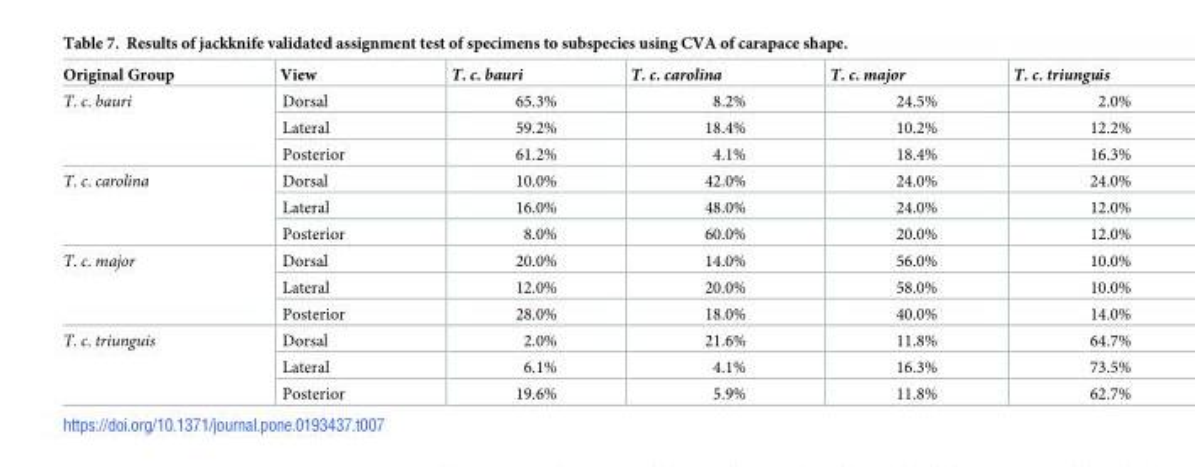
<table><thead><tr><td>Original Group</td><td>View</td><td>T. c. bauri</td><td>T. c. carolina</td><td>T. c. major</td><td>T. c. triunguis</td></tr></thead><tbody><tr><td rowspan="3">T. c. bauri</td><td>Dorsal</td><td>65.3%</td><td>8.2%</td><td>24.5%</td><td>2.0%</td></tr><tr><td>Lateral</td><td>59.2%</td><td>18.4%</td><td>10.2%</td><td>12.2%</td></tr><tr><td>Posterior</td><td>61.2%</td><td>4.1%</td><td>18.4%</td><td>16.3%</td></tr><tr><td rowspan="3">T. c. carolina</td><td>Dorsal</td><td>10.0%</td><td>42.0%</td><td>24.0%</td><td>24.0%</td></tr><tr><td>Lateral</td><td>16.0%</td><td>48.0%</td><td>24.0%</td><td>12.0%</td></tr><tr><td>Posterior</td><td>8.0%</td><td>60.0%</td><td>20.0%</td><td>12.0%</td></tr><tr><td rowspan="3">T. c. major</td><td>Dorsal</td><td>20.0%</td><td>14.0%</td><td>56.0%</td><td>10.0%</td></tr><tr><td>Lateral</td><td>12.0%</td><td>20.0%</td><td>58.0%</td><td>10.0%</td></tr><tr><td>Posterior</td><td>28.0%</td><td>18.0%</td><td>40.0%</td><td>14.0%</td></tr><tr><td rowspan="3">T. c. triunguis</td><td>Dorsal</td><td>2.0%</td><td>21.6%</td><td>11.8%</td><td>64.7%</td></tr><tr><td>Lateral</td><td>6.1%</td><td>4.1%</td><td>16.3%</td><td>73.5%</td></tr><tr><td>Posterior</td><td>19.6%</td><td>5.9%</td><td>11.8%</td><td>62.7%</td></tr></tbody></table>